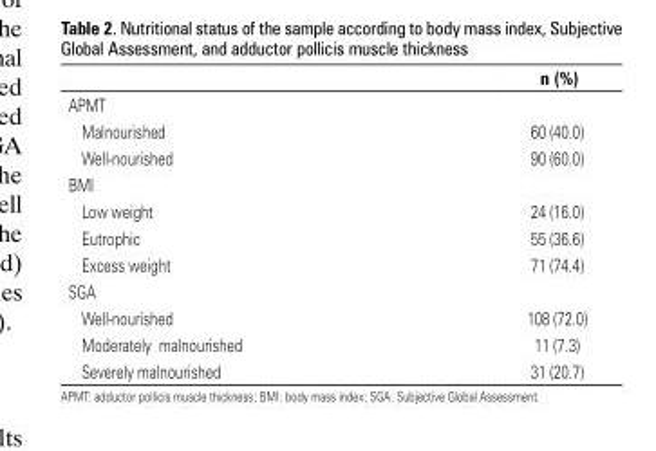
<table><thead><tr><td></td><td>n (%)</td></tr></thead><tbody><tr><td colspan="2">APMT</td></tr><tr><td>Malnourished</td><td>60 (40.0)</td></tr><tr><td>Well-nourished</td><td>90 (60.0)</td></tr><tr><td colspan="2">BMI</td></tr><tr><td>Low weight</td><td>24 (16.0)</td></tr><tr><td>Eutrophic</td><td>55 (36.6)</td></tr><tr><td>Excess weight</td><td>71 (74.4)</td></tr><tr><td colspan="2">SGA</td></tr><tr><td>Well-nourished</td><td>108 (72.0)</td></tr><tr><td>Moderately malnourished</td><td>11 (7.3)</td></tr><tr><td>Severely malnourished</td><td>31 (20.7)</td></tr></tbody></table>